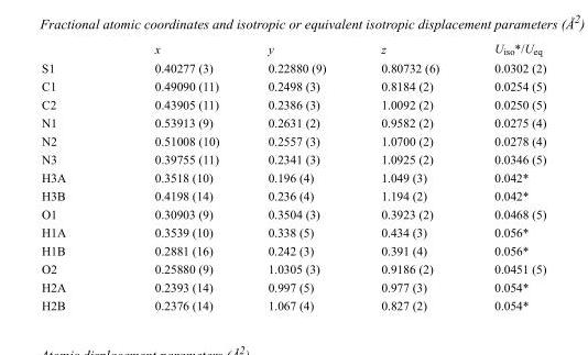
<table><thead><tr><td></td><td>x</td><td>y</td><td>z</td><td>U<sub>iso</sub>*/U<sub>eq</sub></td></tr></thead><tbody><tr><td>S1</td><td>0.40277 (3)</td><td>0.22880 (9)</td><td>0.80732 (6)</td><td>0.0302 (2)</td></tr><tr><td>C1</td><td>0.49090 (11)</td><td>0.2498 (3)</td><td>0.8184 (2)</td><td>0.0254 (5)</td></tr><tr><td>C2</td><td>0.43905 (11)</td><td>0.2386 (3)</td><td>1.0092 (2)</td><td>0.0250 (5)</td></tr><tr><td>N1</td><td>0.53913 (9)</td><td>0.2631 (2)</td><td>0.9582 (2)</td><td>0.0275 (4)</td></tr><tr><td>N2</td><td>0.51008 (10)</td><td>0.2557 (3)</td><td>1.0700 (2)</td><td>0.0278 (4)</td></tr><tr><td>N3</td><td>0.39755 (11)</td><td>0.2341 (3)</td><td>1.0925 (2)</td><td>0.0346 (5)</td></tr><tr><td>H3A</td><td>0.3518 (10)</td><td>0.196 (4)</td><td>1.049 (3)</td><td>0.042*</td></tr><tr><td>H3B</td><td>0.4198 (14)</td><td>0.236 (4)</td><td>1.194 (2)</td><td>0.042*</td></tr><tr><td>O1</td><td>0.30903 (9)</td><td>0.3504 (3)</td><td>0.3923 (2)</td><td>0.0468 (5)</td></tr><tr><td>H1A</td><td>0.3539 (10)</td><td>0.338 (5)</td><td>0.434 (3)</td><td>0.056*</td></tr><tr><td>H1B</td><td>0.2881 (16)</td><td>0.242 (3)</td><td>0.391 (4)</td><td>0.056*</td></tr><tr><td>O2</td><td>0.25880 (9)</td><td>1.0305 (3)</td><td>0.9186 (2)</td><td>0.0451 (5)</td></tr><tr><td>H2A</td><td>0.2393 (14)</td><td>0.997 (5)</td><td>0.977 (3)</td><td>0.054*</td></tr><tr><td>H2B</td><td>0.2376 (14)</td><td>1.067 (4)</td><td>0.827 (2)</td><td>0.054*</td></tr></tbody></table>